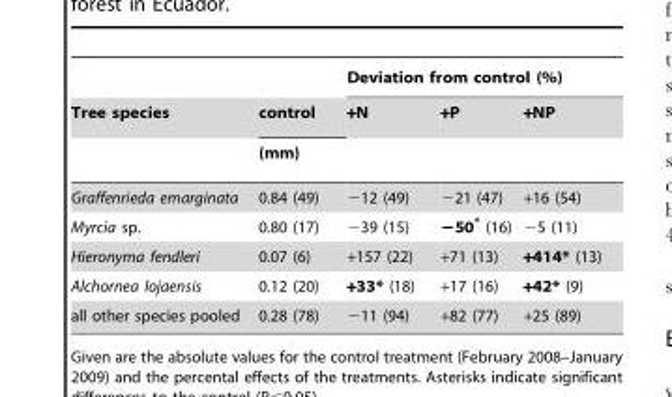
<table><thead><tr><td rowspan="2">Tree species</td><td rowspan="2">control</td><td colspan="3">Deviation from control (%)</td></tr><tr><td>+N</td><td>+P</td><td>+NP</td></tr></thead><tbody><tr><td></td><td>(mm)</td><td></td><td></td><td></td></tr><tr><td>Graffenrieda emarginata</td><td>0.84 (49)</td><td>−12 (49)</td><td>−21 (47)</td><td>+16 (54)</td></tr><tr><td>Myrcia sp.</td><td>0.80 (17)</td><td>−39 (15)</td><td>−50* (16)</td><td>−5 (11)</td></tr><tr><td>Hieronyma fendleri</td><td>0.07 (6)</td><td>+157 (22)</td><td>+71 (13)</td><td>+414* (13)</td></tr><tr><td>Alchornea lojaensis</td><td>0.12 (20)</td><td>+33* (18)</td><td>+17 (16)</td><td>+42* (9)</td></tr><tr><td>all other species pooled</td><td>0.28 (78)</td><td>−11 (94)</td><td>+82 (77)</td><td>+25 (89)</td></tr></tbody></table>